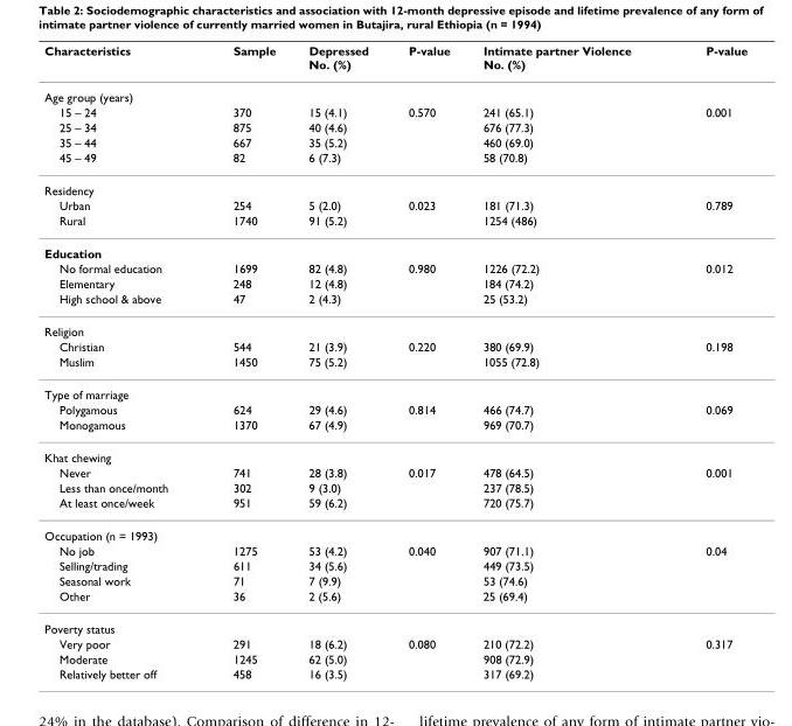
<table><thead><tr><td>Characteristics</td><td>Sample</td><td>Depressed No. (%)</td><td>P-value</td><td>Intimate partner Violence No. (%)</td><td>P-value</td></tr></thead><tbody><tr><td colspan="6">Age group (years)</td></tr><tr><td>15 – 24</td><td>370</td><td>15 (4.1)</td><td>0.570</td><td>241 (65.1)</td><td>0.001</td></tr><tr><td>25 – 34</td><td>875</td><td>40 (4.6)</td><td></td><td>676 (77.3)</td><td></td></tr><tr><td>35 – 44</td><td>667</td><td>35 (5.2)</td><td></td><td>460 (69.0)</td><td></td></tr><tr><td>45 – 49</td><td>82</td><td>6 (7.3)</td><td></td><td>58 (70.8)</td><td></td></tr><tr><td colspan="6">Residency</td></tr><tr><td>Urban</td><td>254</td><td>5 (2.0)</td><td>0.023</td><td>181 (71.3)</td><td>0.789</td></tr><tr><td>Rural</td><td>1740</td><td>91 (5.2)</td><td></td><td>1254 (486)</td><td></td></tr><tr><td colspan="6">Education</td></tr><tr><td>No formal education</td><td>1699</td><td>82 (4.8)</td><td>0.980</td><td>1226 (72.2)</td><td>0.012</td></tr><tr><td>Elementary</td><td>248</td><td>12 (4.8)</td><td></td><td>184 (74.2)</td><td></td></tr><tr><td>High school &amp; above</td><td>47</td><td>2 (4.3)</td><td></td><td>25 (53.2)</td><td></td></tr><tr><td colspan="6">Religion</td></tr><tr><td>Christian</td><td>544</td><td>21 (3.9)</td><td>0.220</td><td>380 (69.9)</td><td>0.198</td></tr><tr><td>Muslim</td><td>1450</td><td>75 (5.2)</td><td></td><td>1055 (72.8)</td><td></td></tr><tr><td colspan="6">Type of marriage</td></tr><tr><td>Polygamous</td><td>624</td><td>29 (4.6)</td><td>0.814</td><td>466 (74.7)</td><td>0.069</td></tr><tr><td>Monogamous</td><td>1370</td><td>67 (4.9)</td><td></td><td>969 (70.7)</td><td></td></tr><tr><td colspan="6">Khat chewing</td></tr><tr><td>Never</td><td>741</td><td>28 (3.8)</td><td>0.017</td><td>478 (64.5)</td><td>0.001</td></tr><tr><td>Less than once/month</td><td>302</td><td>9 (3.0)</td><td></td><td>237 (78.5)</td><td></td></tr><tr><td>At least once/week</td><td>951</td><td>59 (6.2)</td><td></td><td>720 (75.7)</td><td></td></tr><tr><td colspan="6">Occupation (n = 1993)</td></tr><tr><td>No job</td><td>1275</td><td>53 (4.2)</td><td>0.040</td><td>907 (71.1)</td><td>0.04</td></tr><tr><td>Selling/trading</td><td>611</td><td>34 (5.6)</td><td></td><td>449 (73.5)</td><td></td></tr><tr><td>Seasonal work</td><td>71</td><td>7 (9.9)</td><td></td><td>53 (74.6)</td><td></td></tr><tr><td>Other</td><td>36</td><td>2 (5.6)</td><td></td><td>25 (69.4)</td><td></td></tr><tr><td colspan="6">Poverty status</td></tr><tr><td>Very poor</td><td>291</td><td>18 (6.2)</td><td>0.080</td><td>210 (72.2)</td><td>0.317</td></tr><tr><td>Moderate</td><td>1245</td><td>62 (5.0)</td><td></td><td>908 (72.9)</td><td></td></tr><tr><td>Relatively better off</td><td>458</td><td>16 (3.5)</td><td></td><td>317 (69.2)</td><td></td></tr></tbody></table>